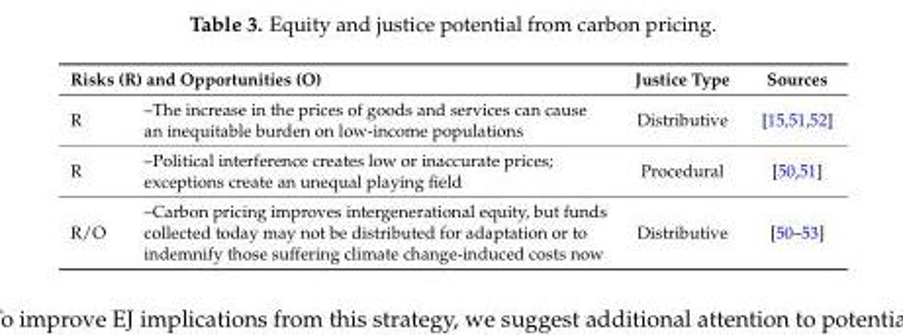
<table><thead><tr><td colspan="2">Risks (R) and Opportunities (O)</td><td rowspan="2">Justice Type Distributive</td><td rowspan="2">Sources [15,51,52]</td></tr><tr><td>R</td><td>–The increase in the prices of goods and services can cause an inequitable burden on low-income populations</td></tr></thead><tbody><tr><td>R</td><td>–Political interference creates low or inaccurate prices; exceptions create an unequal playing field</td><td>Procedural</td><td>[50,51]</td></tr><tr><td>R/O</td><td>–Carbon pricing improves intergenerational equity, but funds collected today may not be distributed for adaptation or to indemnify those suffering climate change-induced costs now</td><td>Distributive</td><td>[50–53]</td></tr></tbody></table>